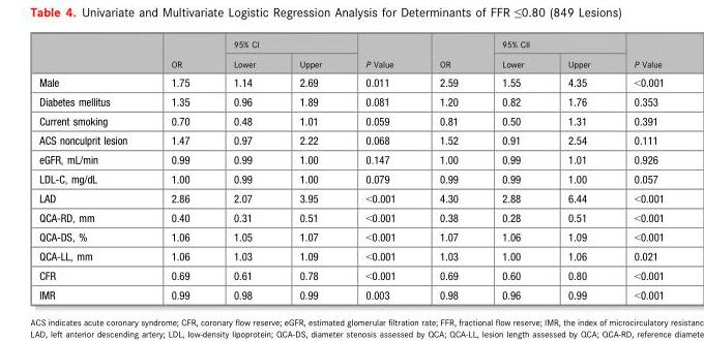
<table><thead><tr><td rowspan="2"></td><td rowspan="2">OR</td><td colspan="2">95% CI</td><td rowspan="2">P Value</td><td rowspan="2">OR</td><td colspan="2">95% CIl</td><td rowspan="2">P Value</td></tr><tr><td>Lower</td><td>Upper</td><td>Lower</td><td>Upper</td></tr></thead><tbody><tr><td>Male</td><td>1.75</td><td>1.14</td><td>2.69</td><td>0.011</td><td>2.59</td><td>1.55</td><td>4.35</td><td>&lt;0.001</td></tr><tr><td>Diabetes mellitus</td><td>1.35</td><td>0.96</td><td>1.89</td><td>0.081</td><td>1.20</td><td>0.82</td><td>1.76</td><td>0.353</td></tr><tr><td>Current smoking</td><td>0.70</td><td>0.48</td><td>1.01</td><td>0.059</td><td>0.81</td><td>0.50</td><td>1.31</td><td>0.391</td></tr><tr><td>ACS nonculprit lesion</td><td>1.47</td><td>0.97</td><td>2.22</td><td>0.068</td><td>1.52</td><td>0.91</td><td>2.54</td><td>0.111</td></tr><tr><td>eGFR, mL/min</td><td>0.99</td><td>0.99</td><td>1.00</td><td>0.147</td><td>1.00</td><td>0.99</td><td>1.01</td><td>0.926</td></tr><tr><td>LDL-C, mg/dL</td><td>1.00</td><td>0.99</td><td>1.00</td><td>0.079</td><td>0.99</td><td>0.99</td><td>1.00</td><td>0.057</td></tr><tr><td>LAD</td><td>2.86</td><td>2.07</td><td>3.95</td><td>&lt;0.001</td><td>4.30</td><td>2.88</td><td>6.44</td><td>&lt;0.001</td></tr><tr><td>QCA-RD, mm</td><td>0.40</td><td>0.31</td><td>0.51</td><td>&lt;0.001</td><td>0.38</td><td>0.28</td><td>0.51</td><td>&lt;0.001</td></tr><tr><td>QCA-DS, %</td><td>1.06</td><td>1.05</td><td>1.07</td><td>&lt;0.001</td><td>1.07</td><td>1.06</td><td>1.09</td><td>&lt;0.001</td></tr><tr><td>QCA-LL, mm</td><td>1.06</td><td>1.03</td><td>1.09</td><td>&lt;0.001</td><td>1.03</td><td>1.00</td><td>1.06</td><td>0.021</td></tr><tr><td>CFR</td><td>0.69</td><td>0.61</td><td>0.78</td><td>&lt;0.001</td><td>0.69</td><td>0.60</td><td>0.80</td><td>&lt;0.001</td></tr><tr><td>IMR</td><td>0.99</td><td>0.98</td><td>0.99</td><td>0.003</td><td>0.98</td><td>0.96</td><td>0.99</td><td>&lt;0.001</td></tr></tbody></table>